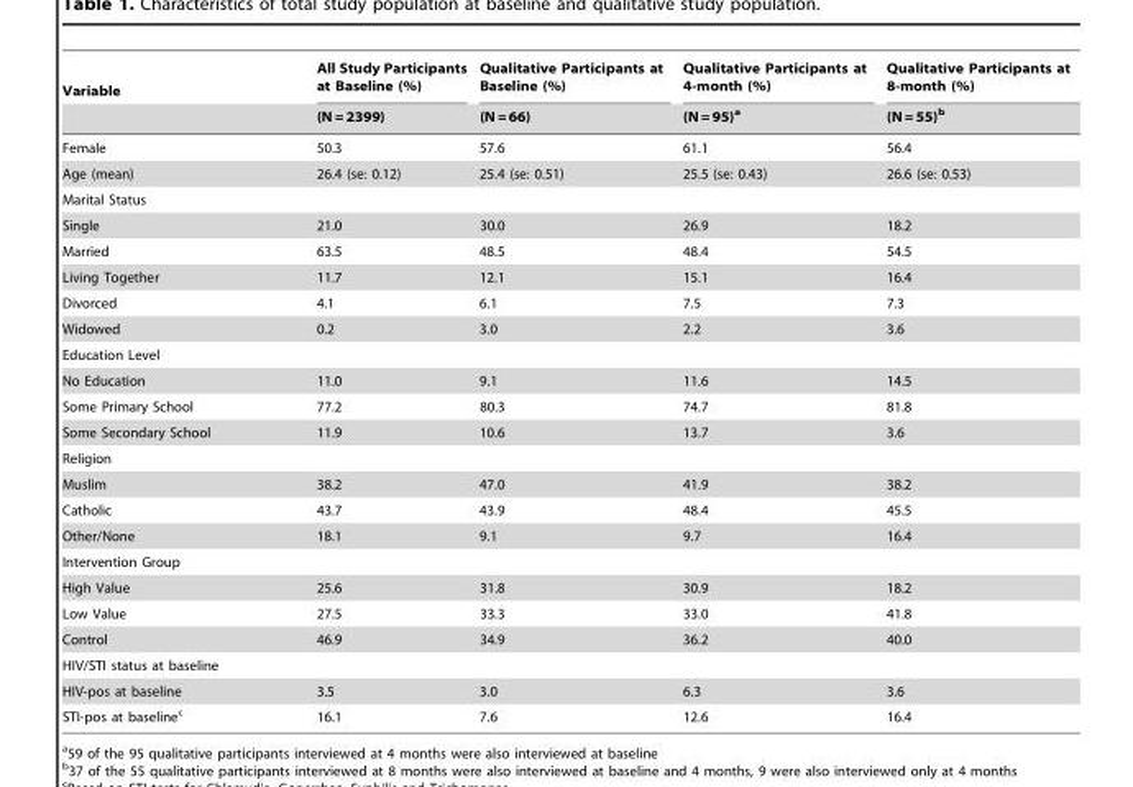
<table><thead><tr><td rowspan="2">Variable</td><td rowspan="2">All Study Participants at Baseline (%) (N = 2399)</td><td rowspan="2">Qualitative Participants at Baseline (%) (N = 66)</td><td rowspan="2">Qualitative Participants at 4-month (%) (N = 95)<sup>a</sup></td><td rowspan="2">Qualitative Participants at 8-month (%) (N = 55)<sup>b</sup></td></tr><tr></tr></thead><tbody><tr><td>Female</td><td>50.3</td><td>57.6</td><td>61.1</td><td>56.4</td></tr><tr><td>Age (mean)</td><td>26.4 (se: 0.12)</td><td>25.4 (se: 0.51)</td><td>25.5 (se: 0.43)</td><td>26.6 (se: 0.53)</td></tr><tr><td colspan="5">Marital Status</td></tr><tr><td>Single</td><td>21.0</td><td>30.0</td><td>26.9</td><td>18.2</td></tr><tr><td>Married</td><td>63.5</td><td>48.5</td><td>48.4</td><td>54.5</td></tr><tr><td>Living Together</td><td>11.7</td><td>12.1</td><td>15.1</td><td>16.4</td></tr><tr><td>Divorced</td><td>4.1</td><td>6.1</td><td>7.5</td><td>7.3</td></tr><tr><td>Widowed</td><td>0.2</td><td>3.0</td><td>2.2</td><td>3.6</td></tr><tr><td colspan="5">Education Level</td></tr><tr><td>No Education</td><td>11.0</td><td>9.1</td><td>11.6</td><td>14.5</td></tr><tr><td>Some Primary School</td><td>77.2</td><td>80.3</td><td>74.7</td><td>81.8</td></tr><tr><td>Some Secondary School</td><td>11.9</td><td>10.6</td><td>13.7</td><td>3.6</td></tr><tr><td colspan="5">Religion</td></tr><tr><td>Muslim</td><td>38.2</td><td>47.0</td><td>41.9</td><td>38.2</td></tr><tr><td>Catholic</td><td>43.7</td><td>43.9</td><td>48.4</td><td>45.5</td></tr><tr><td>Other/None</td><td>18.1</td><td>9.1</td><td>9.7</td><td>16.4</td></tr><tr><td colspan="5">Intervention Group</td></tr><tr><td>High Value</td><td>25.6</td><td>31.8</td><td>30.9</td><td>18.2</td></tr><tr><td>Low Value</td><td>27.5</td><td>33.3</td><td>33.0</td><td>41.8</td></tr><tr><td>Control</td><td>46.9</td><td>34.9</td><td>36.2</td><td>40.0</td></tr><tr><td colspan="5">HIV/STI status at baseline</td></tr><tr><td>HIV-pos at baseline</td><td>3.5</td><td>3.0</td><td>6.3</td><td>3.6</td></tr><tr><td>STI-pos at baseline<sup>c</sup></td><td>16.1</td><td>7.6</td><td>12.6</td><td>16.4</td></tr></tbody></table>